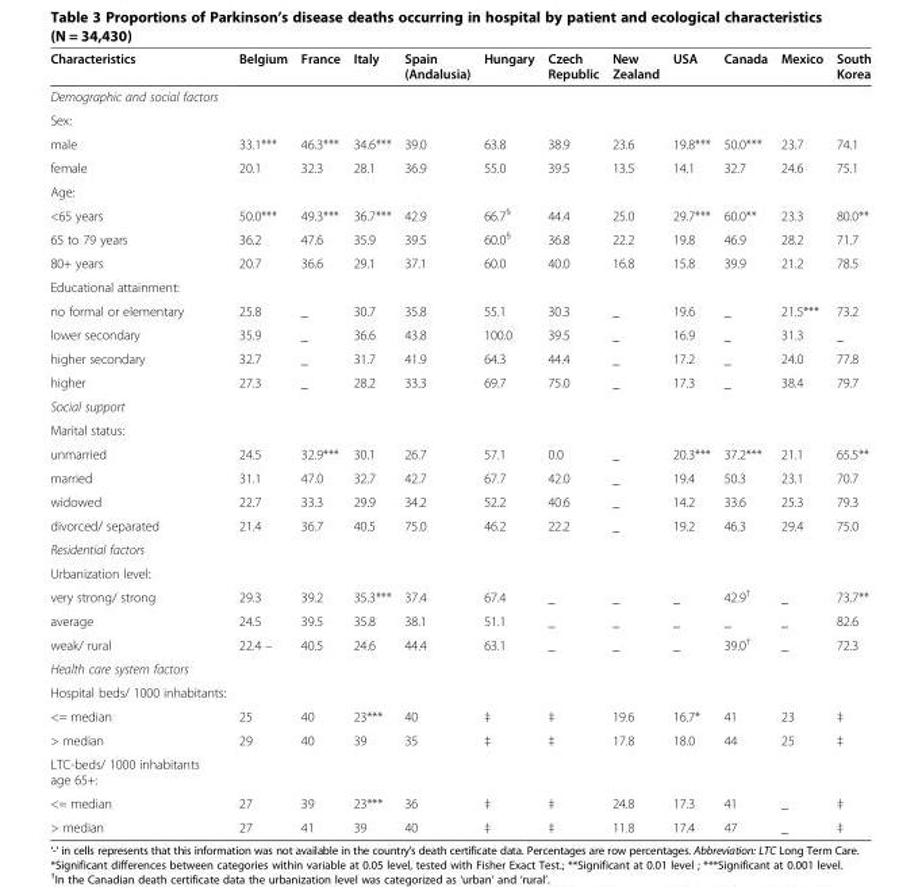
<table><thead><tr><td>Characteristics</td><td>Belgium</td><td>France</td><td>Italy</td><td>Spain (Andalusia)</td><td>Hungary</td><td>Czech Republic</td><td>New Zealand</td><td>USA</td><td>Canada</td><td>Mexico</td><td>South Korea</td></tr></thead><tbody><tr><td colspan="12">Demographic and social factors</td></tr><tr><td colspan="12">Sex:</td></tr><tr><td>male</td><td>33.1***</td><td>46.3***</td><td>34.6***</td><td>39.0</td><td>63.8</td><td>38.9</td><td>23.6</td><td>19.8***</td><td>50.0***</td><td>23.7</td><td>74.1</td></tr><tr><td>female</td><td>20.1</td><td>32.3</td><td>28.1</td><td>36.9</td><td>55.0</td><td>39.5</td><td>13.5</td><td>14.1</td><td>32.7</td><td>24.6</td><td>75.1</td></tr><tr><td colspan="12">Age:</td></tr><tr><td>&lt;65 years</td><td>50.0***</td><td>49.3***</td><td>36.7***</td><td>42.9</td><td>66.7<sup>§</sup></td><td>44.4</td><td>25.0</td><td>29.7***</td><td>60.0**</td><td>23.3</td><td>80.0**</td></tr><tr><td>65 to 79 years</td><td>36.2</td><td>47.6</td><td>35.9</td><td>39.5</td><td>60.0<sup>§</sup></td><td>36.8</td><td>22.2</td><td>19.8</td><td>46.9</td><td>28.2</td><td>71.7</td></tr><tr><td>80+ years</td><td>20.7</td><td>36.6</td><td>29.1</td><td>37.1</td><td>60.0</td><td>40.0</td><td>16.8</td><td>15.8</td><td>39.9</td><td>21.2</td><td>78.5</td></tr><tr><td colspan="12">Educational attainment:</td></tr><tr><td>no formal or elementary</td><td>25.8</td><td>_</td><td>30.7</td><td>35.8</td><td>55.1</td><td>30.3</td><td>_</td><td>19.6</td><td>_</td><td>21.5***</td><td>73.2</td></tr><tr><td>lower secondary</td><td>35.9</td><td>_</td><td>36.6</td><td>43.8</td><td>100.0</td><td>39.5</td><td>_</td><td>16.9</td><td>_</td><td>31.3</td><td>_</td></tr><tr><td>higher secondary</td><td>32.7</td><td>_</td><td>31.7</td><td>41.9</td><td>64.3</td><td>44.4</td><td>_</td><td>17.2</td><td>_</td><td>24.0</td><td>77.8</td></tr><tr><td>higher</td><td>27.3</td><td>_</td><td>28.2</td><td>33.3</td><td>69.7</td><td>75.0</td><td>_</td><td>17.3</td><td>_</td><td>38.4</td><td>79.7</td></tr><tr><td colspan="12">Social support</td></tr><tr><td colspan="12">Marital status:</td></tr><tr><td>unmarried</td><td>24.5</td><td>32.9***</td><td>30.1</td><td>26.7</td><td>57.1</td><td>0.0</td><td>_</td><td>20.3***</td><td>37.2***</td><td>21.1</td><td>65.5**</td></tr><tr><td>married</td><td>31.1</td><td>47.0</td><td>32.7</td><td>42.7</td><td>67.7</td><td>42.0</td><td>_</td><td>19.4</td><td>50.3</td><td>23.1</td><td>70.7</td></tr><tr><td>widowed</td><td>22.7</td><td>33.3</td><td>29.9</td><td>34.2</td><td>52.2</td><td>40.6</td><td>_</td><td>14.2</td><td>33.6</td><td>25.3</td><td>79.3</td></tr><tr><td>divorced/ separated</td><td>21.4</td><td>36.7</td><td>40.5</td><td>75.0</td><td>46.2</td><td>22.2</td><td>_</td><td>19.2</td><td>46.3</td><td>29.4</td><td>75.0</td></tr><tr><td colspan="12">Residential factors</td></tr><tr><td colspan="12">Urbanization level:</td></tr><tr><td>very strong/ strong</td><td>29.3</td><td>39.2</td><td>35.3***</td><td>37.4</td><td>67.4</td><td>_</td><td>_</td><td>_</td><td>42.9<sup>†</sup></td><td>_</td><td>73.7**</td></tr><tr><td>average</td><td>24.5</td><td>39.5</td><td>35.8</td><td>38.1</td><td>51.1</td><td>_</td><td>_</td><td>_</td><td>_</td><td>_</td><td>82.6</td></tr><tr><td>weak/ rural</td><td>22.4 –</td><td>40.5</td><td>24.6</td><td>44.4</td><td>63.1</td><td>_</td><td>_</td><td>_</td><td>39.0<sup>†</sup></td><td>_</td><td>72.3</td></tr><tr><td colspan="12">Health care system factors</td></tr><tr><td colspan="12">Hospital beds/ 1000 inhabitants:</td></tr><tr><td>&lt;= median</td><td>25</td><td>40</td><td>23***</td><td>40</td><td>‡</td><td>‡</td><td>19.6</td><td>16.7*</td><td>41</td><td>23</td><td>‡</td></tr><tr><td>&gt; median</td><td>29</td><td>40</td><td>39</td><td>35</td><td>‡</td><td>‡</td><td>17.8</td><td>18.0</td><td>44</td><td>25</td><td>‡</td></tr><tr><td colspan="12">LTC-beds/ 1000 inhabitants age 65+:</td></tr><tr><td>&lt;= median</td><td>27</td><td>39</td><td>23***</td><td>36</td><td>‡</td><td>‡</td><td>24.8</td><td>17.3</td><td>41</td><td>_</td><td>‡</td></tr><tr><td>&gt; median</td><td>27</td><td>41</td><td>39</td><td>40</td><td>‡</td><td>‡</td><td>11.8</td><td>17.4</td><td>47</td><td>_</td><td>‡</td></tr></tbody></table>